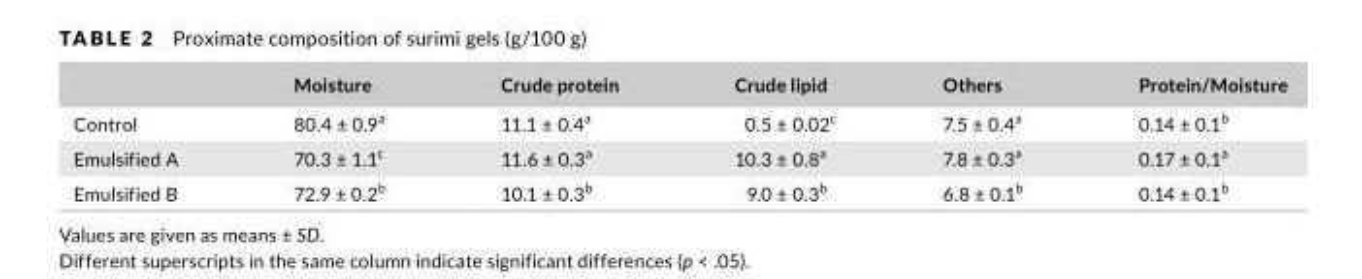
<table><thead><tr><td></td><td>Moisture</td><td>Crude protein</td><td>Crude lipid</td><td>Others</td><td>Protein/Moisture</td></tr></thead><tbody><tr><td>Control</td><td>80.4 ± 0.9<sup>a</sup></td><td>11.1 ± 0.4<sup>a</sup></td><td>0.5 ± 0.02<sup>c</sup></td><td>7.5 ± 0.4<sup>a</sup></td><td>0.14 ± 0.1<sup>b</sup></td></tr><tr><td>Emulsified A</td><td>70.3 ± 1.1<sup>c</sup></td><td>11.6 ± 0.3<sup>a</sup></td><td>10.3 ± 0.8<sup>a</sup></td><td>7.8 ± 0.3<sup>a</sup></td><td>0.17 ± 0.1<sup>a</sup></td></tr><tr><td>Emulsified B</td><td>72.9 ± 0.2<sup>b</sup></td><td>10.1 ± 0.3<sup>b</sup></td><td>9.0 ± 0.3<sup>b</sup></td><td>6.8 ± 0.1<sup>b</sup></td><td>0.14 ± 0.1<sup>b</sup></td></tr></tbody></table>